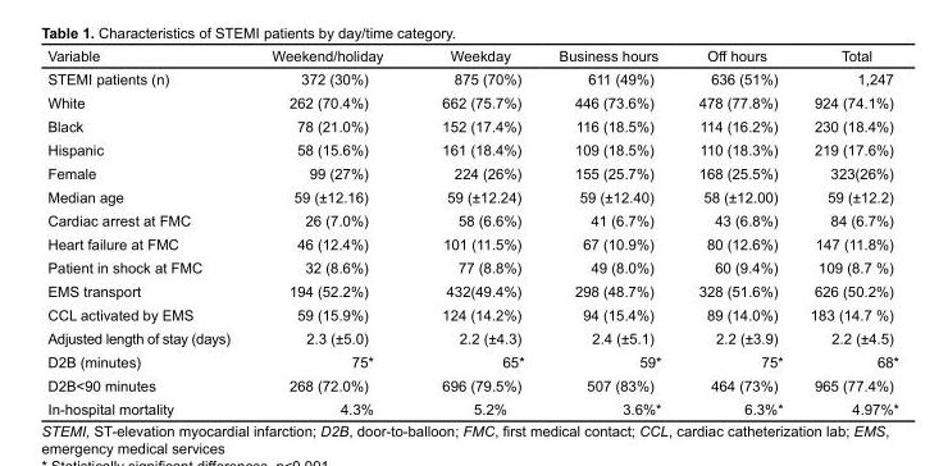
<table><thead><tr><td>Variable</td><td>Weekend/holiday</td><td>Weekday</td><td>Business hours</td><td>Off hours</td><td>Total</td></tr></thead><tbody><tr><td>STEMI patients (n)</td><td>372 (30%)</td><td>875 (70%)</td><td>611 (49%)</td><td>636 (51%)</td><td>1,247</td></tr><tr><td>White</td><td>262 (70.4%)</td><td>662 (75.7%)</td><td>446 (73.6%)</td><td>478 (77.8%)</td><td>924 (74.1%)</td></tr><tr><td>Black</td><td>78 (21.0%)</td><td>152 (17.4%)</td><td>116 (18.5%)</td><td>114 (16.2%)</td><td>230 (18.4%)</td></tr><tr><td>Hispanic</td><td>58 (15.6%)</td><td>161 (18.4%)</td><td>109 (18.5%)</td><td>110 (18.3%)</td><td>219 (17.6%)</td></tr><tr><td>Female</td><td>99 (27%)</td><td>224 (26%)</td><td>155 (25.7%)</td><td>168 (25.5%)</td><td>323(26%)</td></tr><tr><td>Median age</td><td>59 (±12.16)</td><td>59 (±12.24)</td><td>59 (±12.40)</td><td>58 (±12.00)</td><td>59 (±12.2)</td></tr><tr><td>Cardiac arrest at FMC</td><td>26 (7.0%)</td><td>58 (6.6%)</td><td>41 (6.7%)</td><td>43 (6.8%)</td><td>84 (6.7%)</td></tr><tr><td>Heart failure at FMC</td><td>46 (12.4%)</td><td>101 (11.5%)</td><td>67 (10.9%)</td><td>80 (12.6%)</td><td>147 (11.8%)</td></tr><tr><td>Patient in shock at FMC</td><td>32 (8.6%)</td><td>77 (8.8%)</td><td>49 (8.0%)</td><td>60 (9.4%)</td><td>109 (8.7 %)</td></tr><tr><td>EMS transport</td><td>194 (52.2%)</td><td>432(49.4%)</td><td>298 (48.7%)</td><td>328 (51.6%)</td><td>626 (50.2%)</td></tr><tr><td>CCL activated by EMS</td><td>59 (15.9%)</td><td>124 (14.2%)</td><td>94 (15.4%)</td><td>89 (14.0%)</td><td>183 (14.7 %)</td></tr><tr><td>Adjusted length of stay (days)</td><td>2.3 (±5.0)</td><td>2.2 (±4.3)</td><td>2.4 (±5.1)</td><td>2.2 (±3.9)</td><td>2.2 (±4.5)</td></tr><tr><td>D2B (minutes)</td><td>75*</td><td>65*</td><td>59*</td><td>75*</td><td>68*</td></tr><tr><td>D2B&lt;90 minutes</td><td>268 (72.0%)</td><td>696 (79.5%)</td><td>507 (83%)</td><td>464 (73%)</td><td>965 (77.4%)</td></tr><tr><td>In-hospital mortality</td><td>4.3%</td><td>5.2%</td><td>3.6%*</td><td>6.3%*</td><td>4.97%*</td></tr></tbody></table>